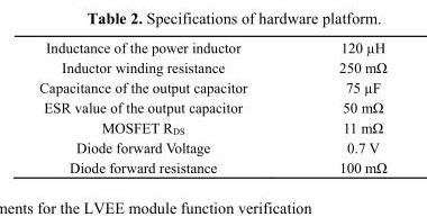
<table><tbody><tr><td>Inductance of the power inductor</td><td>120 µH</td></tr><tr><td>Inductor winding resistance</td><td>250 mΩ</td></tr><tr><td>Capacitance of the output capacitor</td><td>75 µF</td></tr><tr><td>ESR value of the output capacitor</td><td>50 mΩ</td></tr><tr><td>MOSFET R<sub>DS</sub></td><td>11 mΩ</td></tr><tr><td>Diode forward Voltage</td><td>0.7 V</td></tr><tr><td>Diode forward resistance</td><td>100 mΩ</td></tr></tbody></table>